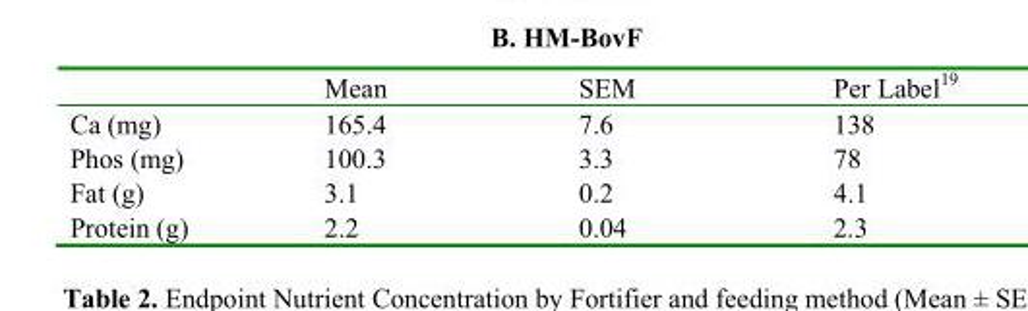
<table><thead><tr><td></td><td>Mean</td><td>SEM</td><td>Per Label<sup>19</sup></td></tr></thead><tbody><tr><td>Ca (mg)</td><td>165.4</td><td>7.6</td><td>138</td></tr><tr><td>Phos (mg)</td><td>100.3</td><td>3.3</td><td>78</td></tr><tr><td>Fat (g)</td><td>3.1</td><td>0.2</td><td>4.1</td></tr><tr><td>Protein (g)</td><td>2.2</td><td>0.04</td><td>2.3</td></tr></tbody></table>